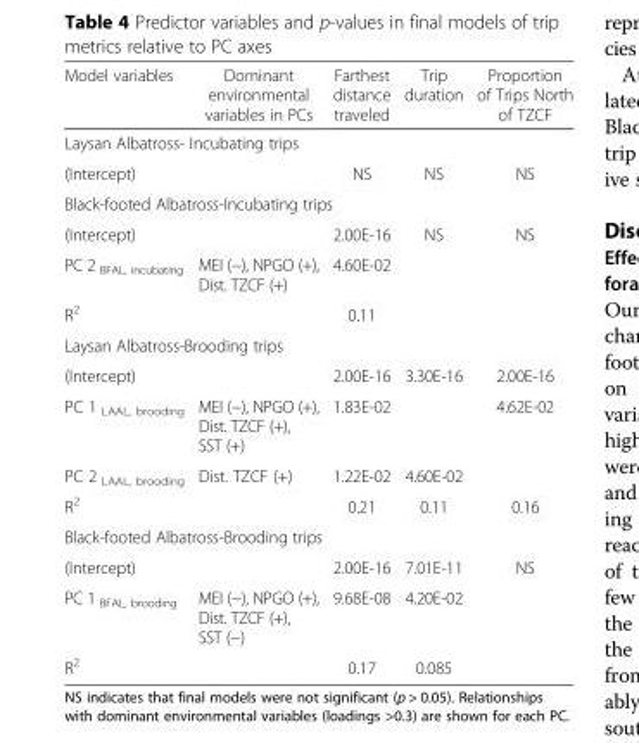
<table><thead><tr><td>Model variables</td><td>Dominant environmental variables in PCs</td><td>Farthest distance traveled</td><td>Trip duration</td><td>Proportion of Trips North of TZCF</td></tr></thead><tbody><tr><td colspan="5">Laysan Albatross- Incubating trips</td></tr><tr><td colspan="2">(Intercept)</td><td>NS</td><td>NS</td><td>NS</td></tr><tr><td colspan="5">Black-footed Albatross-Incubating trips</td></tr><tr><td colspan="2">(Intercept)</td><td>2.00E-16</td><td>NS</td><td>NS</td></tr><tr><td>PC 2 <sub>BFAL, incubating</sub></td><td>MEI (−), NPGO (+), Dist. TZCF (+)</td><td>4.60E-02</td><td></td><td></td></tr><tr><td colspan="2">R<sup>2</sup></td><td>0.11</td><td></td><td></td></tr><tr><td colspan="5">Laysan Albatross-Brooding trips</td></tr><tr><td colspan="2">(Intercept)</td><td>2.00E-16</td><td>3.30E-16</td><td>2.00E-16</td></tr><tr><td>PC 1 <sub>LAAL, brooding</sub></td><td>MEI (−), NPGO (+), Dist. TZCF (+), SST (+)</td><td>1.83E-02</td><td></td><td>4.62E-02</td></tr><tr><td>PC 2 <sub>LAAL, brooding</sub></td><td>Dist. TZCF (+)</td><td>1.22E-02</td><td>4.60E-02</td><td></td></tr><tr><td colspan="2">R<sup>2</sup></td><td>0.21</td><td>0.11</td><td>0.16</td></tr><tr><td colspan="5">Black-footed Albatross-Brooding trips</td></tr><tr><td colspan="2">(Intercept)</td><td>2.00E-16</td><td>7.01E-11</td><td>NS</td></tr><tr><td>PC 1 <sub>BFAL, brooding</sub></td><td>MEI (−), NPGO (+), Dist. TZCF (+), SST (−)</td><td>9.68E-08</td><td>4.20E-02</td><td></td></tr><tr><td colspan="2">R<sup>2</sup></td><td>0.17</td><td>0.085</td><td></td></tr></tbody></table>